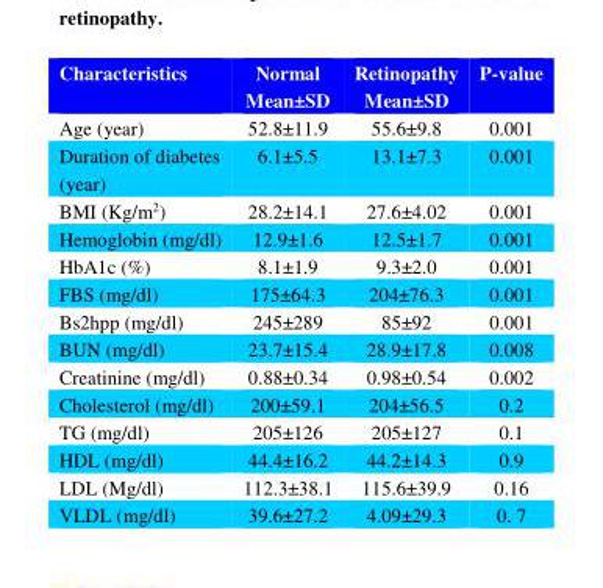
<table><thead><tr><td>P-value</td><td>Retinopathy Mean±SD</td><td>Normal Mean±SD</td><td>Characteristics</td></tr></thead><tbody><tr><td>0.001</td><td>55.6±9.8</td><td>52.8±11.9</td><td>Age (year)</td></tr><tr><td>0.001</td><td>13.1±7.3</td><td>6.1±5.5</td><td>Duration of diabetes (year)</td></tr><tr><td>0.001</td><td>27.6±4.02</td><td>28.2±14.1</td><td>BMI (Kg/m<sup>2</sup>)</td></tr><tr><td>0.001</td><td>12.5±1.7</td><td>12.9±1.6</td><td>Hemoglobin (mg/dl)</td></tr><tr><td>0.001</td><td>9.3±2.0</td><td>8.1±1.9</td><td>HbA1c (%)</td></tr><tr><td>0.001</td><td>204±76.3</td><td>175±64.3</td><td>FBS (mg/dl)</td></tr><tr><td>0.001</td><td>85±92</td><td>245±289</td><td>Bs2hpp (mg/dl)</td></tr><tr><td>0.008</td><td>28.9±17.8</td><td>23.7±15.4</td><td>BUN (mg/dl)</td></tr><tr><td>0.002</td><td>0.98±0.54</td><td>0.88±0.34</td><td>Creatinine (mg/dl)</td></tr><tr><td>0.2</td><td>204±56.5</td><td>200±59.1</td><td>Cholesterol (mg/dl)</td></tr><tr><td>0.1</td><td>205±127</td><td>205±126</td><td>TG (mg/dl)</td></tr><tr><td>0.9</td><td>44.2±14.3</td><td>44.4±16.2</td><td>HDL (mg/dl)</td></tr><tr><td>0.16</td><td>115.6±39.9</td><td>112.3±38.1</td><td>LDL (Mg/dl)</td></tr><tr><td>0. 7</td><td>4.09±29.3</td><td>39.6±27.2</td><td>VLDL (mg/dl)</td></tr></tbody></table>